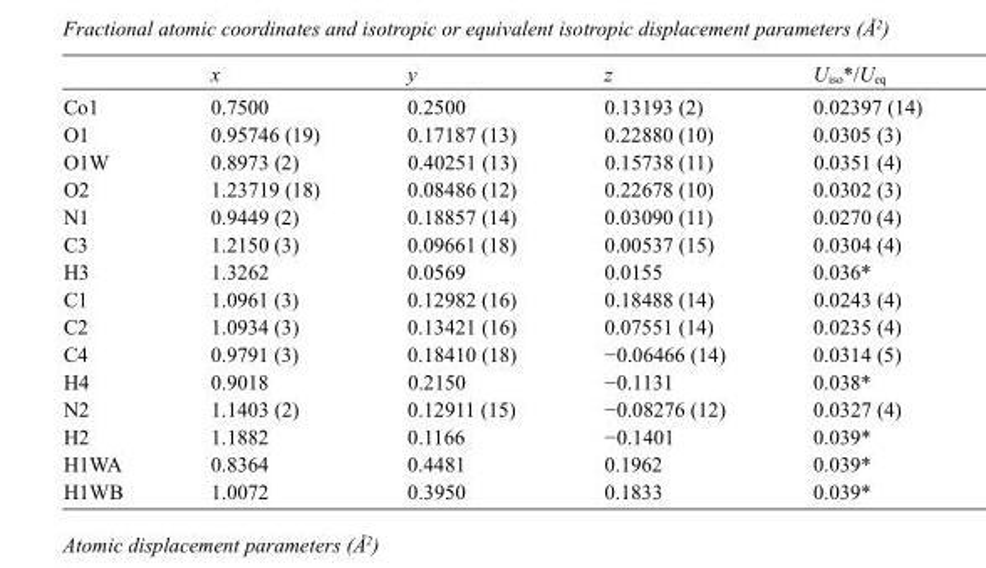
<table><thead><tr><td></td><td>x</td><td>y</td><td>z</td><td>U<sub>iso</sub>*/U<sub>eq</sub></td></tr></thead><tbody><tr><td>Co1</td><td>0.7500</td><td>0.2500</td><td>0.13193 (2)</td><td>0.02397 (14)</td></tr><tr><td>O1</td><td>0.95746 (19)</td><td>0.17187 (13)</td><td>0.22880 (10)</td><td>0.0305 (3)</td></tr><tr><td>O1W</td><td>0.8973 (2)</td><td>0.40251 (13)</td><td>0.15738 (11)</td><td>0.0351 (4)</td></tr><tr><td>O2</td><td>1.23719 (18)</td><td>0.08486 (12)</td><td>0.22678 (10)</td><td>0.0302 (3)</td></tr><tr><td>N1</td><td>0.9449 (2)</td><td>0.18857 (14)</td><td>0.03090 (11)</td><td>0.0270 (4)</td></tr><tr><td>C3</td><td>1.2150 (3)</td><td>0.09661 (18)</td><td>0.00537 (15)</td><td>0.0304 (4)</td></tr><tr><td>H3</td><td>1.3262</td><td>0.0569</td><td>0.0155</td><td>0.036*</td></tr><tr><td>C1</td><td>1.0961 (3)</td><td>0.12982 (16)</td><td>0.18488 (14)</td><td>0.0243 (4)</td></tr><tr><td>C2</td><td>1.0934 (3)</td><td>0.13421 (16)</td><td>0.07551 (14)</td><td>0.0235 (4)</td></tr><tr><td>C4</td><td>0.9791 (3)</td><td>0.18410 (18)</td><td>−0.06466 (14)</td><td>0.0314 (5)</td></tr><tr><td>H4</td><td>0.9018</td><td>0.2150</td><td>−0.1131</td><td>0.038*</td></tr><tr><td>N2</td><td>1.1403 (2)</td><td>0.12911 (15)</td><td>−0.08276 (12)</td><td>0.0327 (4)</td></tr><tr><td>H2</td><td>1.1882</td><td>0.1166</td><td>−0.1401</td><td>0.039*</td></tr><tr><td>H1WA</td><td>0.8364</td><td>0.4481</td><td>0.1962</td><td>0.039*</td></tr><tr><td>H1WB</td><td>1.0072</td><td>0.3950</td><td>0.1833</td><td>0.039*</td></tr></tbody></table>